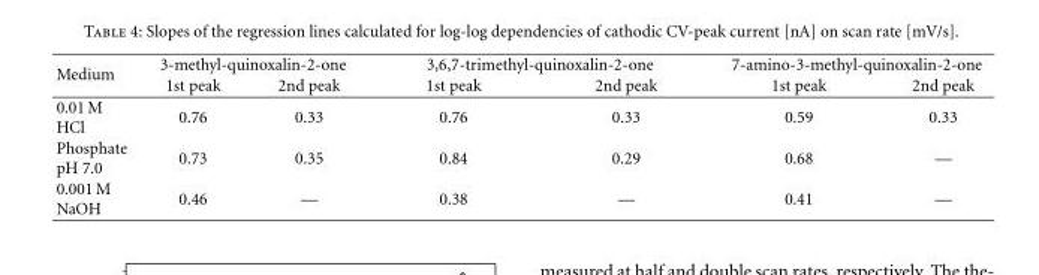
<table><thead><tr><td rowspan="2">Medium</td><td colspan="2">3-methyl-quinoxalin-2-one</td><td colspan="2">3,6,7-trimethyl-quinoxalin-2-one</td><td colspan="2">7-amino-3-methyl-quinoxalin-2-one</td></tr><tr><td>1st peak</td><td>2nd peak</td><td>1st peak</td><td>2nd peak</td><td>1st peak</td><td>2nd peak</td></tr></thead><tbody><tr><td>0.01 M HCl</td><td>0.76</td><td>0.33</td><td>0.76</td><td>0.33</td><td>0.59</td><td>0.33</td></tr><tr><td>Phosphate pH 7.0</td><td>0.73</td><td>0.35</td><td>0.84</td><td>0.29</td><td>0.68</td><td>—</td></tr><tr><td>0.001 M NaOH</td><td>0.46</td><td>—</td><td>0.38</td><td>—</td><td>0.41</td><td>—</td></tr></tbody></table>